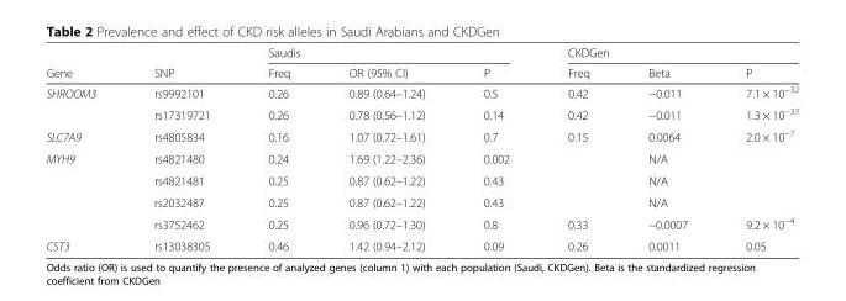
<table><thead><tr><td rowspan="2">Gene</td><td rowspan="2">SNP</td><td colspan="3">Saudis</td><td colspan="3">CKDGen</td></tr><tr><td>Freq</td><td>OR (95% CI)</td><td>P</td><td>Freq</td><td>Beta</td><td>P</td></tr></thead><tbody><tr><td rowspan="2">SHROOM3</td><td>rs9992101</td><td>0.26</td><td>0.89 (0.64–1.24)</td><td>0.5</td><td>0.42</td><td>−0.011</td><td>7.1 × 10<sup>−32</sup></td></tr><tr><td>rs17319721</td><td>0.26</td><td>0.78 (0.56–1.12)</td><td>0.14</td><td>0.42</td><td>−0.011</td><td>1.3 × 10<sup>−37</sup></td></tr><tr><td>SLC7A9</td><td>rs4805834</td><td>0.16</td><td>1.07 (0.72–1.61)</td><td>0.7</td><td>0.15</td><td>0.0064</td><td>2.0 × 10<sup>−7</sup></td></tr><tr><td rowspan="4">MYH9</td><td>rs4821480</td><td>0.24</td><td>1.69 (1.22–2.36)</td><td>0.002</td><td></td><td>N/A</td><td></td></tr><tr><td>rs4821481</td><td>0.25</td><td>0.87 (0.62–1.22)</td><td>0.43</td><td></td><td>N/A</td><td></td></tr><tr><td>rs2032487</td><td>0.25</td><td>0.87 (0.62–1.22)</td><td>0.43</td><td></td><td>N/A</td><td></td></tr><tr><td>rs3752462</td><td>0.25</td><td>0.96 (0.72–1.30)</td><td>0.8</td><td>0.33</td><td>−0.0007</td><td>9.2 × 10<sup>−4</sup></td></tr><tr><td>CST3</td><td>rs13038305</td><td>0.46</td><td>1.42 (0.94–2.12)</td><td>0.09</td><td>0.26</td><td>0.0011</td><td>0.05</td></tr></tbody></table>